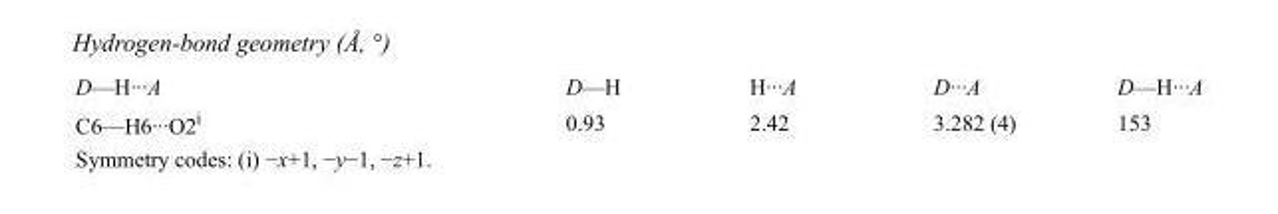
<table><tbody><tr><td>D—H···A</td><td>D—H</td><td>H···A</td><td>D···A</td><td>D—H···A</td></tr><tr><td>C6—H6···O2<sup>i</sup></td><td>0.93</td><td>2.42</td><td>3.282 (4)</td><td>153</td></tr></tbody></table>